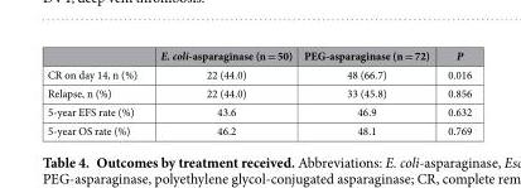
<table><thead><tr><td></td><td>E. coli-asparaginase (n = 50)</td><td>PEG-asparaginase (n = 72)</td><td>P</td></tr></thead><tbody><tr><td>CR on day 14, n (%)</td><td>22 (44.0)</td><td>48 (66.7)</td><td>0.016</td></tr><tr><td>Relapse, n (%)</td><td>22 (44.0)</td><td>33 (45.8)</td><td>0.856</td></tr><tr><td>5-year EFS rate (%)</td><td>43.6</td><td>46.9</td><td>0.632</td></tr><tr><td>5-year OS rate (%)</td><td>46.2</td><td>48.1</td><td>0.769</td></tr></tbody></table>